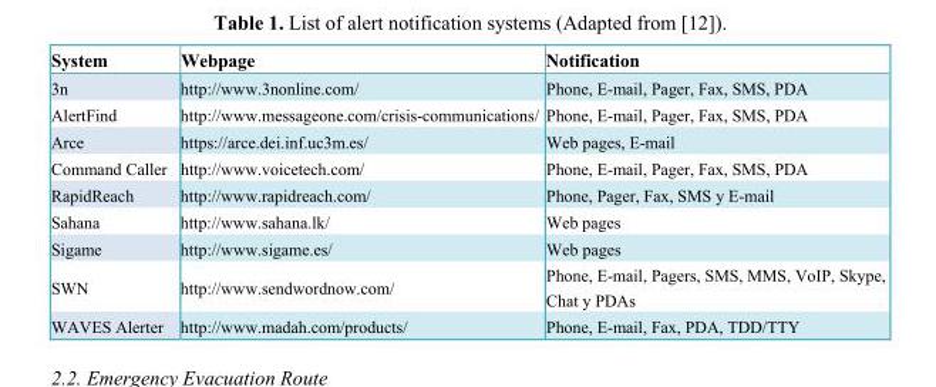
<table><thead><tr><td>System</td><td>Webpage</td><td>Notification</td></tr></thead><tbody><tr><td>3n</td><td>http://www.3nonline.com/</td><td>Phone, E-mail, Pager, Fax, SMS, PDA</td></tr><tr><td>AlertFind</td><td>http://www.messageone.com/crisis-communications/</td><td>Phone, E-mail, Pager, Fax, SMS, PDA</td></tr><tr><td>Arce</td><td>https://arce.dei.inf.uc3m.es/</td><td>Web pages, E-mail</td></tr><tr><td>Command Caller</td><td>http://www.voicetech.com/</td><td>Phone, E-mail, Pager, Fax, SMS, PDA</td></tr><tr><td>RapidReach</td><td>http://www.rapidreach.com/</td><td>Phone, Pager, Fax, SMS y E-mail</td></tr><tr><td>Sahana</td><td>http://www.sahana.lk/</td><td>Web pages</td></tr><tr><td>Sigame</td><td>http://www.sigame.es/</td><td>Web pages</td></tr><tr><td>SWN</td><td>http://www.sendwordnow.com/</td><td>Phone, E-mail, Pagers, SMS, MMS, VoIP, Skype, Chat y PDAs</td></tr><tr><td>WAVES Alerter</td><td>http://www.madah.com/products/</td><td>Phone, E-mail, Fax, PDA, TDD/TTY</td></tr></tbody></table>